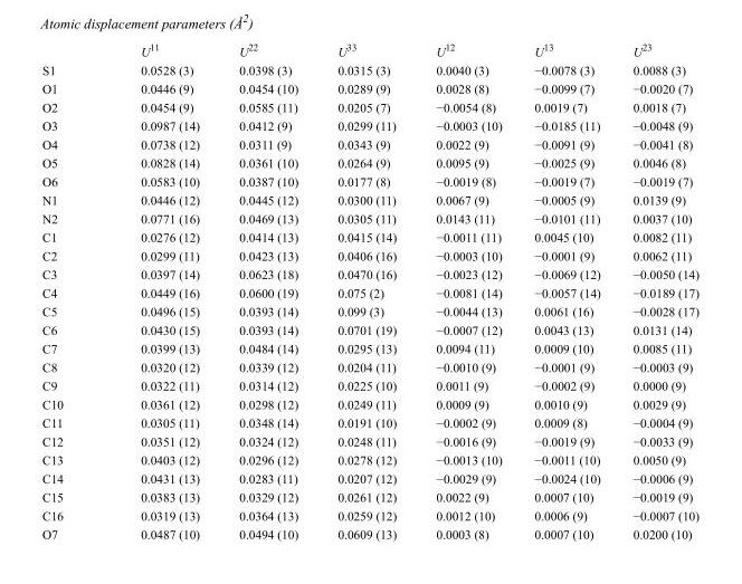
<table><thead><tr><td></td><td>U<sup>11</sup></td><td>U<sup>22</sup></td><td>U<sup>33</sup></td><td>U<sup>12</sup></td><td>U<sup>13</sup></td><td>U<sup>23</sup></td></tr></thead><tbody><tr><td>S1</td><td>0.0528 (3)</td><td>0.0398 (3)</td><td>0.0315 (3)</td><td>0.0040 (3)</td><td>−0.0078 (3)</td><td>0.0088 (3)</td></tr><tr><td>O1</td><td>0.0446 (9)</td><td>0.0454 (10)</td><td>0.0289 (9)</td><td>0.0028 (8)</td><td>−0.0099 (7)</td><td>−0.0020 (7)</td></tr><tr><td>O2</td><td>0.0454 (9)</td><td>0.0585 (11)</td><td>0.0205 (7)</td><td>−0.0054 (8)</td><td>0.0019 (7)</td><td>0.0018 (7)</td></tr><tr><td>O3</td><td>0.0987 (14)</td><td>0.0412 (9)</td><td>0.0299 (11)</td><td>−0.0003 (10)</td><td>−0.0185 (11)</td><td>−0.0048 (9)</td></tr><tr><td>O4</td><td>0.0738 (12)</td><td>0.0311 (9)</td><td>0.0343 (9)</td><td>0.0022 (9)</td><td>−0.0091 (9)</td><td>−0.0041 (8)</td></tr><tr><td>O5</td><td>0.0828 (14)</td><td>0.0361 (10)</td><td>0.0264 (9)</td><td>0.0095 (9)</td><td>−0.0025 (9)</td><td>0.0046 (8)</td></tr><tr><td>O6</td><td>0.0583 (10)</td><td>0.0387 (10)</td><td>0.0177 (8)</td><td>−0.0019 (8)</td><td>−0.0019 (7)</td><td>−0.0019 (7)</td></tr><tr><td>N1</td><td>0.0446 (12)</td><td>0.0445 (12)</td><td>0.0300 (11)</td><td>0.0067 (9)</td><td>−0.0005 (9)</td><td>0.0139 (9)</td></tr><tr><td>N2</td><td>0.0771 (16)</td><td>0.0469 (13)</td><td>0.0305 (11)</td><td>0.0143 (11)</td><td>−0.0101 (11)</td><td>0.0037 (10)</td></tr><tr><td>C1</td><td>0.0276 (12)</td><td>0.0414 (13)</td><td>0.0415 (14)</td><td>−0.0011 (11)</td><td>0.0045 (10)</td><td>0.0082 (11)</td></tr><tr><td>C2</td><td>0.0299 (11)</td><td>0.0423 (13)</td><td>0.0406 (16)</td><td>−0.0003 (10)</td><td>−0.0001 (9)</td><td>0.0062 (11)</td></tr><tr><td>C3</td><td>0.0397 (14)</td><td>0.0623 (18)</td><td>0.0470 (16)</td><td>−0.0023 (12)</td><td>−0.0069 (12)</td><td>−0.0050 (14)</td></tr><tr><td>C4</td><td>0.0449 (16)</td><td>0.0600 (19)</td><td>0.075 (2)</td><td>−0.0081 (14)</td><td>−0.0057 (14)</td><td>−0.0189 (17)</td></tr><tr><td>C5</td><td>0.0496 (15)</td><td>0.0393 (14)</td><td>0.099 (3)</td><td>−0.0044 (13)</td><td>0.0061 (16)</td><td>−0.0028 (17)</td></tr><tr><td>C6</td><td>0.0430 (15)</td><td>0.0393 (14)</td><td>0.0701 (19)</td><td>−0.0007 (12)</td><td>0.0043 (13)</td><td>0.0131 (14)</td></tr><tr><td>C7</td><td>0.0399 (13)</td><td>0.0484 (14)</td><td>0.0295 (13)</td><td>0.0094 (11)</td><td>0.0009 (10)</td><td>0.0085 (11)</td></tr><tr><td>C8</td><td>0.0320 (12)</td><td>0.0339 (12)</td><td>0.0204 (11)</td><td>−0.0010 (9)</td><td>−0.0001 (9)</td><td>−0.0003 (9)</td></tr><tr><td>C9</td><td>0.0322 (11)</td><td>0.0314 (12)</td><td>0.0225 (10)</td><td>0.0011 (9)</td><td>−0.0002 (9)</td><td>0.0000 (9)</td></tr><tr><td>C10</td><td>0.0361 (12)</td><td>0.0298 (12)</td><td>0.0249 (11)</td><td>0.0009 (9)</td><td>0.0010 (9)</td><td>0.0029 (9)</td></tr><tr><td>C11</td><td>0.0305 (11)</td><td>0.0348 (14)</td><td>0.0191 (10)</td><td>−0.0002 (9)</td><td>0.0009 (8)</td><td>−0.0004 (9)</td></tr><tr><td>C12</td><td>0.0351 (12)</td><td>0.0324 (12)</td><td>0.0248 (11)</td><td>−0.0016 (9)</td><td>−0.0019 (9)</td><td>−0.0033 (9)</td></tr><tr><td>C13</td><td>0.0403 (12)</td><td>0.0296 (12)</td><td>0.0278 (12)</td><td>−0.0013 (10)</td><td>−0.0011 (10)</td><td>0.0050 (9)</td></tr><tr><td>C14</td><td>0.0431 (13)</td><td>0.0283 (11)</td><td>0.0207 (12)</td><td>−0.0029 (9)</td><td>−0.0024 (10)</td><td>−0.0006 (9)</td></tr><tr><td>C15</td><td>0.0383 (13)</td><td>0.0329 (12)</td><td>0.0261 (12)</td><td>0.0022 (9)</td><td>0.0007 (10)</td><td>−0.0019 (9)</td></tr><tr><td>C16</td><td>0.0319 (13)</td><td>0.0364 (13)</td><td>0.0259 (12)</td><td>0.0012 (10)</td><td>0.0006 (9)</td><td>−0.0007 (10)</td></tr><tr><td>O7</td><td>0.0487 (10)</td><td>0.0494 (10)</td><td>0.0609 (13)</td><td>0.0003 (8)</td><td>0.0007 (10)</td><td>0.0200 (10)</td></tr></tbody></table>